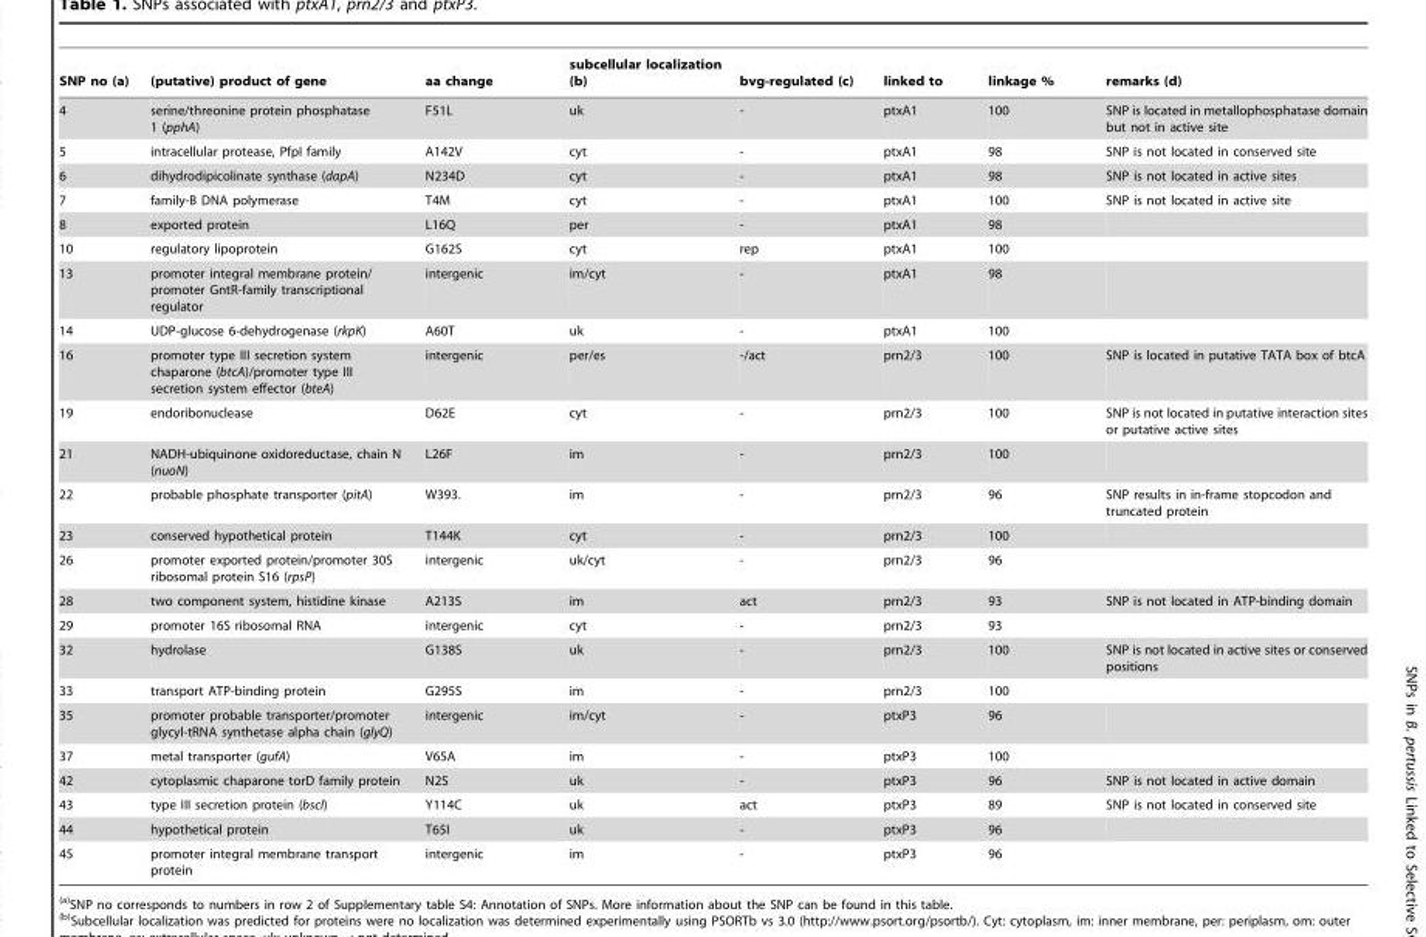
<table><thead><tr><td>SNP no (a)</td><td>(putative) product of gene</td><td>aa change</td><td>subcellular localization (b)</td><td>bvg-regulated (c)</td><td>linked to</td><td>linkage %</td><td>remarks (d)</td></tr></thead><tbody><tr><td>4</td><td>serine/threonine protein phosphatase 1 (pphA)</td><td>F51L</td><td>uk</td><td>-</td><td>ptxA1</td><td>100</td><td>SNP is located in metallophosphatase domain but not in active site</td></tr><tr><td>5</td><td>intracellular protease, PfpI family</td><td>A142V</td><td>cyt</td><td>-</td><td>ptxA1</td><td>98</td><td>SNP is not located in conserved site</td></tr><tr><td>6</td><td>dihydrodipicolinate synthase (dapA)</td><td>N234D</td><td>cyt</td><td>-</td><td>ptxA1</td><td>98</td><td>SNP is not located in active sites</td></tr><tr><td>7</td><td>family-B DNA polymerase</td><td>T4M</td><td>cyt</td><td>-</td><td>ptxA1</td><td>100</td><td>SNP is not located in active site</td></tr><tr><td>8</td><td>exported protein</td><td>L16Q</td><td>per</td><td>-</td><td>ptxA1</td><td>98</td><td></td></tr><tr><td>10</td><td>regulatory lipoprotein</td><td>G162S</td><td>cyt</td><td>rep</td><td>ptxA1</td><td>100</td><td></td></tr><tr><td>13</td><td>promoter integral membrane protein/ promoter GntR-family transcriptional regulator</td><td>intergenic</td><td>im/cyt</td><td>-</td><td>ptxA1</td><td>98</td><td></td></tr><tr><td>14</td><td>UDP-glucose 6-dehydrogenase (rkpK)</td><td>A60T</td><td>uk</td><td>-</td><td>ptxA1</td><td>100</td><td></td></tr><tr><td>16</td><td>promoter type III secretion system chaparone (btcA)/promoter type III secretion system effector (bteA)</td><td>intergenic</td><td>per/es</td><td>-/act</td><td>prn2/3</td><td>100</td><td>SNP is located in putative TATA box of btcA</td></tr><tr><td>19</td><td>endoribonuclease</td><td>D62E</td><td>cyt</td><td>-</td><td>prn2/3</td><td>100</td><td>SNP is not located in putative interaction sites or putative active sites</td></tr><tr><td>21</td><td>NADH-ubiquinone oxidoreductase, chain N (nuoN)</td><td>L26F</td><td>im</td><td>-</td><td>prn2/3</td><td>100</td><td></td></tr><tr><td>22</td><td>probable phosphate transporter (pitA)</td><td>W393.</td><td>im</td><td>-</td><td>prn2/3</td><td>96</td><td>SNP results in in-frame stopcodon and truncated protein</td></tr><tr><td>23</td><td>conserved hypothetical protein</td><td>T144K</td><td>cyt</td><td>-</td><td>prn2/3</td><td>100</td><td></td></tr><tr><td>26</td><td>promoter exported protein/promoter 30S ribosomal protein S16 (rpsP)</td><td>intergenic</td><td>uk/cyt</td><td>-</td><td>prn2/3</td><td>96</td><td></td></tr><tr><td>28</td><td>two component system, histidine kinase</td><td>A213S</td><td>im</td><td>act</td><td>prn2/3</td><td>93</td><td>SNP is not located in ATP-binding domain</td></tr><tr><td>29</td><td>promoter 16S ribosomal RNA</td><td>intergenic</td><td>cyt</td><td>-</td><td>prn2/3</td><td>93</td><td></td></tr><tr><td>32</td><td>hydrolase</td><td>G138S</td><td>uk</td><td>-</td><td>prn2/3</td><td>100</td><td>SNP is not located in active sites or conserved positions</td></tr><tr><td>33</td><td>transport ATP-binding protein</td><td>G295S</td><td>im</td><td>-</td><td>prn2/3</td><td>100</td><td></td></tr><tr><td>35</td><td>promoter probable transporter/promoter glycyl-tRNA synthetase alpha chain (glyQ)</td><td>intergenic</td><td>im/cyt</td><td>-</td><td>ptxP3</td><td>96</td><td></td></tr><tr><td>37</td><td>metal transporter (gufA)</td><td>V65A</td><td>im</td><td>-</td><td>ptxP3</td><td>100</td><td></td></tr><tr><td>42</td><td>cytoplasmic chaparone torD family protein</td><td>N2S</td><td>uk</td><td>-</td><td>ptxP3</td><td>96</td><td>SNP is not located in active domain</td></tr><tr><td>43</td><td>type III secretion protein (bscI)</td><td>Y114C</td><td>uk</td><td>act</td><td>ptxP3</td><td>89</td><td>SNP is not located in conserved site</td></tr><tr><td>44</td><td>hypothetical protein</td><td>T65I</td><td>uk</td><td>-</td><td>ptxP3</td><td>96</td><td></td></tr><tr><td>45</td><td>promoter integral membrane transport protein</td><td>intergenic</td><td>im</td><td>-</td><td>ptxP3</td><td>96</td><td></td></tr></tbody></table>